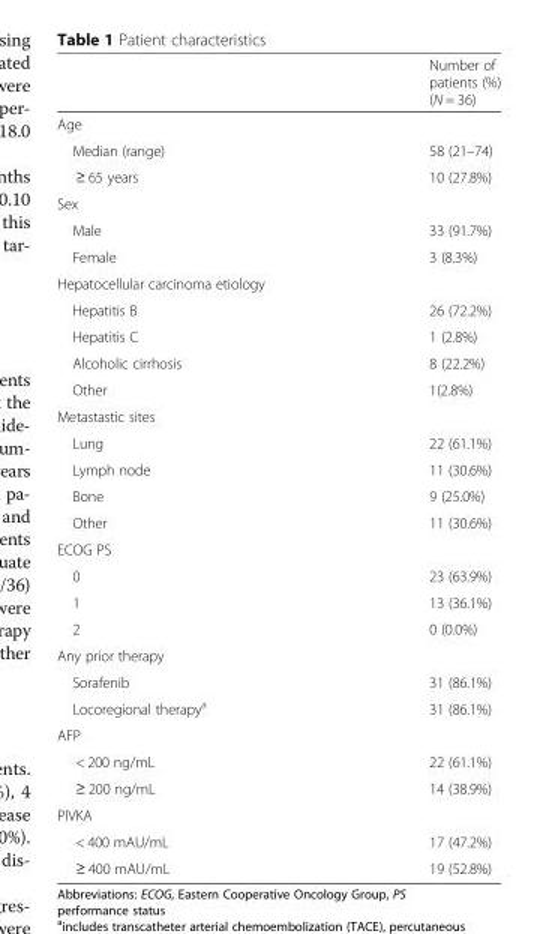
<table><thead><tr><td></td><td>Number of patients (%) (N = 36)</td></tr></thead><tbody><tr><td colspan="2">Age</td></tr><tr><td>Median (range)</td><td>58 (21–74)</td></tr><tr><td>≥ 65 years</td><td>10 (27.8%)</td></tr><tr><td colspan="2">Sex</td></tr><tr><td>Male</td><td>33 (91.7%)</td></tr><tr><td>Female</td><td>3 (8.3%)</td></tr><tr><td colspan="2">Hepatocellular carcinoma etiology</td></tr><tr><td>Hepatitis B</td><td>26 (72.2%)</td></tr><tr><td>Hepatitis C</td><td>1 (2.8%)</td></tr><tr><td>Alcoholic cirrhosis</td><td>8 (22.2%)</td></tr><tr><td>Other</td><td>1(2.8%)</td></tr><tr><td colspan="2">Metastastic sites</td></tr><tr><td>Lung</td><td>22 (61.1%)</td></tr><tr><td>Lymph node</td><td>11 (30.6%)</td></tr><tr><td>Bone</td><td>9 (25.0%)</td></tr><tr><td>Other</td><td>11 (30.6%)</td></tr><tr><td colspan="2">ECOG PS</td></tr><tr><td>0</td><td>23 (63.9%)</td></tr><tr><td>1</td><td>13 (36.1%)</td></tr><tr><td>2</td><td>0 (0.0%)</td></tr><tr><td colspan="2">Any prior therapy</td></tr><tr><td>Sorafenib</td><td>31 (86.1%)</td></tr><tr><td>Locoregional therapy<sup>a</sup></td><td>31 (86.1%)</td></tr><tr><td colspan="2">AFP</td></tr><tr><td>&lt; 200 ng/mL</td><td>22 (61.1%)</td></tr><tr><td>≥ 200 ng/mL</td><td>14 (38.9%)</td></tr><tr><td colspan="2">PIVKA</td></tr><tr><td>&lt; 400 mAU/mL</td><td>17 (47.2%)</td></tr><tr><td>≥ 400 mAU/mL</td><td>19 (52.8%)</td></tr></tbody></table>